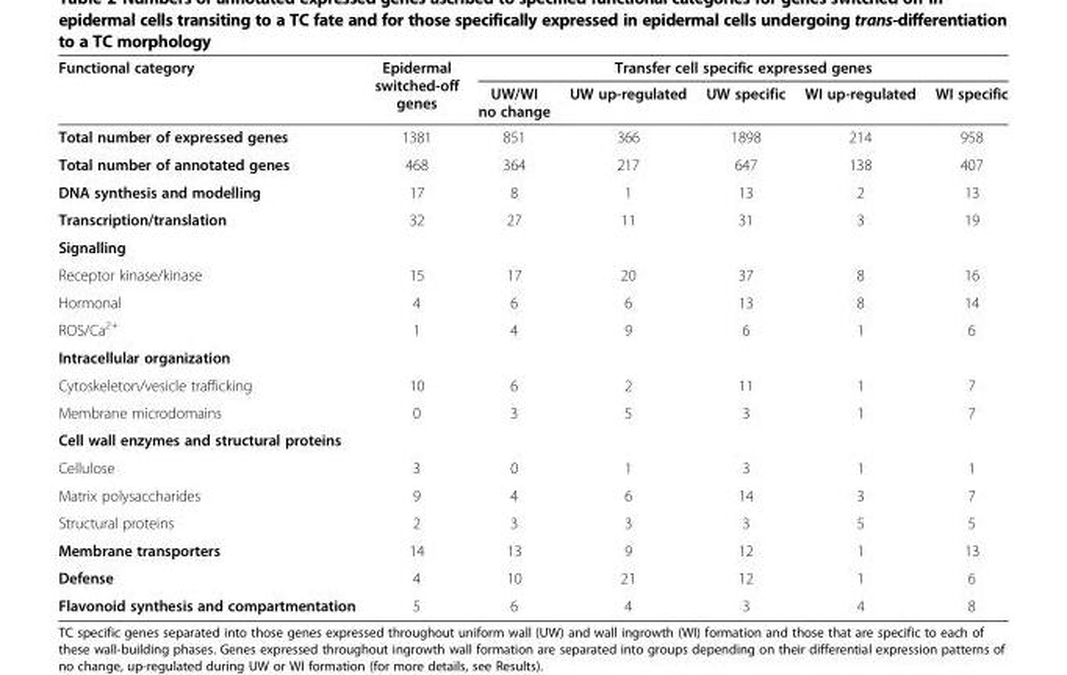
<table><thead><tr><td rowspan="2">Functional category</td><td rowspan="2">Epidermal switched-off genes</td><td colspan="5">Transfer cell specific expressed genes</td></tr><tr><td>UW/WI no change</td><td>UW up-regulated</td><td>UW specific</td><td>WI up-regulated</td><td>WI specific</td></tr></thead><tbody><tr><td>Total number of expressed genes</td><td>1381</td><td>851</td><td>366</td><td>1898</td><td>214</td><td>958</td></tr><tr><td>Total number of annotated genes</td><td>468</td><td>364</td><td>217</td><td>647</td><td>138</td><td>407</td></tr><tr><td>DNA synthesis and modelling</td><td>17</td><td>8</td><td>1</td><td>13</td><td>2</td><td>13</td></tr><tr><td>Transcription/translation</td><td>32</td><td>27</td><td>11</td><td>31</td><td>3</td><td>19</td></tr><tr><td colspan="7">Signalling</td></tr><tr><td>Receptor kinase/kinase</td><td>15</td><td>17</td><td>20</td><td>37</td><td>8</td><td>16</td></tr><tr><td>Hormonal</td><td>4</td><td>6</td><td>6</td><td>13</td><td>8</td><td>14</td></tr><tr><td>ROS/Ca<sup>2+</sup></td><td>1</td><td>4</td><td>9</td><td>6</td><td>1</td><td>6</td></tr><tr><td colspan="7">Intracellular organization</td></tr><tr><td>Cytoskeleton/vesicle trafficking</td><td>10</td><td>6</td><td>2</td><td>11</td><td>1</td><td>7</td></tr><tr><td>Membrane microdomains</td><td>0</td><td>3</td><td>5</td><td>3</td><td>1</td><td>7</td></tr><tr><td colspan="7">Cell wall enzymes and structural proteins</td></tr><tr><td>Cellulose</td><td>3</td><td>0</td><td>1</td><td>3</td><td>1</td><td>1</td></tr><tr><td>Matrix polysaccharides</td><td>9</td><td>4</td><td>6</td><td>14</td><td>3</td><td>7</td></tr><tr><td>Structural proteins</td><td>2</td><td>3</td><td>3</td><td>3</td><td>5</td><td>5</td></tr><tr><td>Membrane transporters</td><td>14</td><td>13</td><td>9</td><td>12</td><td>1</td><td>13</td></tr><tr><td>Defense</td><td>4</td><td>10</td><td>21</td><td>12</td><td>1</td><td>6</td></tr><tr><td>Flavonoid synthesis and compartmentation</td><td>5</td><td>6</td><td>4</td><td>3</td><td>4</td><td>8</td></tr></tbody></table>